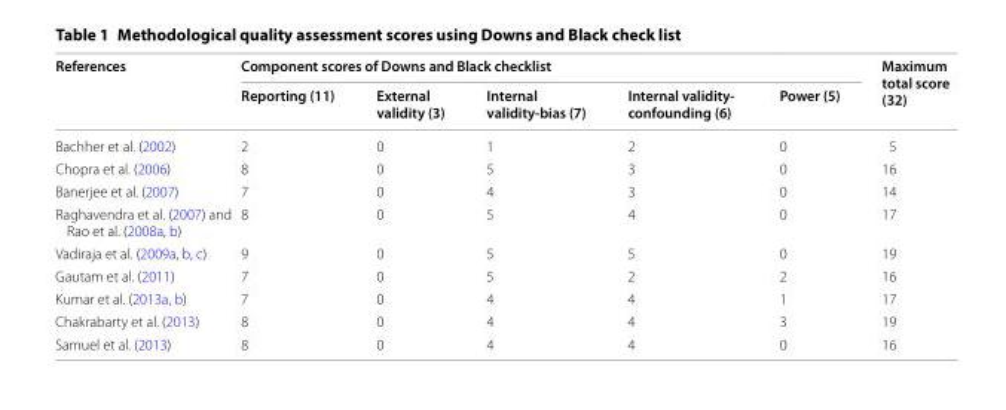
<table><thead><tr><td rowspan="2">References</td><td colspan="5">Component scores of Downs and Black checklist</td><td rowspan="2">Maximum total score (32)</td></tr><tr><td>Reporting (11)</td><td>External validity (3)</td><td>Internal validity-bias (7)</td><td>Internal validity- confounding (6)</td><td>Power (5)</td></tr></thead><tbody><tr><td>Bachher et al. (2002)</td><td>2</td><td>0</td><td>1</td><td>2</td><td>0</td><td>5</td></tr><tr><td>Chopra et al. (2006)</td><td>8</td><td>0</td><td>5</td><td>3</td><td>0</td><td>16</td></tr><tr><td>Banerjee et al. (2007)</td><td>7</td><td>0</td><td>4</td><td>3</td><td>0</td><td>14</td></tr><tr><td>Raghavendra et al. (2007) and Rao et al. (2008a, b)</td><td>8</td><td>0</td><td>5</td><td>4</td><td>0</td><td>17</td></tr><tr><td>Vadiraja et al. (2009a, b, c)</td><td>9</td><td>0</td><td>5</td><td>5</td><td>0</td><td>19</td></tr><tr><td>Gautam et al. (2011)</td><td>7</td><td>0</td><td>5</td><td>2</td><td>2</td><td>16</td></tr><tr><td>Kumar et al. (2013a, b)</td><td>7</td><td>0</td><td>4</td><td>4</td><td>1</td><td>17</td></tr><tr><td>Chakrabarty et al. (2013)</td><td>8</td><td>0</td><td>4</td><td>4</td><td>3</td><td>19</td></tr><tr><td>Samuel et al. (2013)</td><td>8</td><td>0</td><td>4</td><td>4</td><td>0</td><td>16</td></tr></tbody></table>